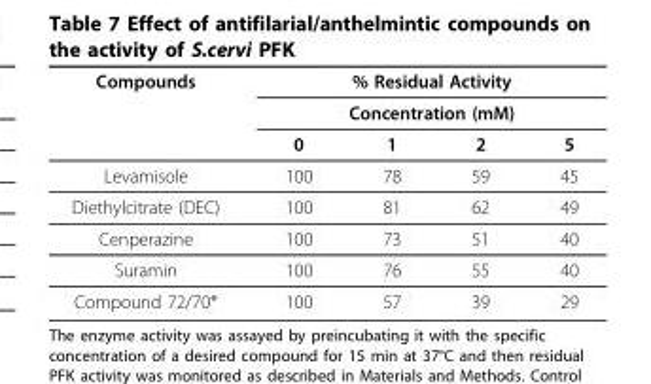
<table><thead><tr><td rowspan="3">Compounds</td><td rowspan="2" colspan="4">% Residual Activity Concentration (mM)</td></tr><tr></tr><tr><td>0</td><td>1</td><td>2</td><td>5</td></tr></thead><tbody><tr><td>Levamisole</td><td>100</td><td>78</td><td>59</td><td>45</td></tr><tr><td>Diethylcitrate (DEC)</td><td>100</td><td>81</td><td>62</td><td>49</td></tr><tr><td>Cenperazine</td><td>100</td><td>73</td><td>51</td><td>40</td></tr><tr><td>Suramin</td><td>100</td><td>76</td><td>55</td><td>40</td></tr><tr><td>Compound 72/70*</td><td>100</td><td>57</td><td>39</td><td>29</td></tr></tbody></table>